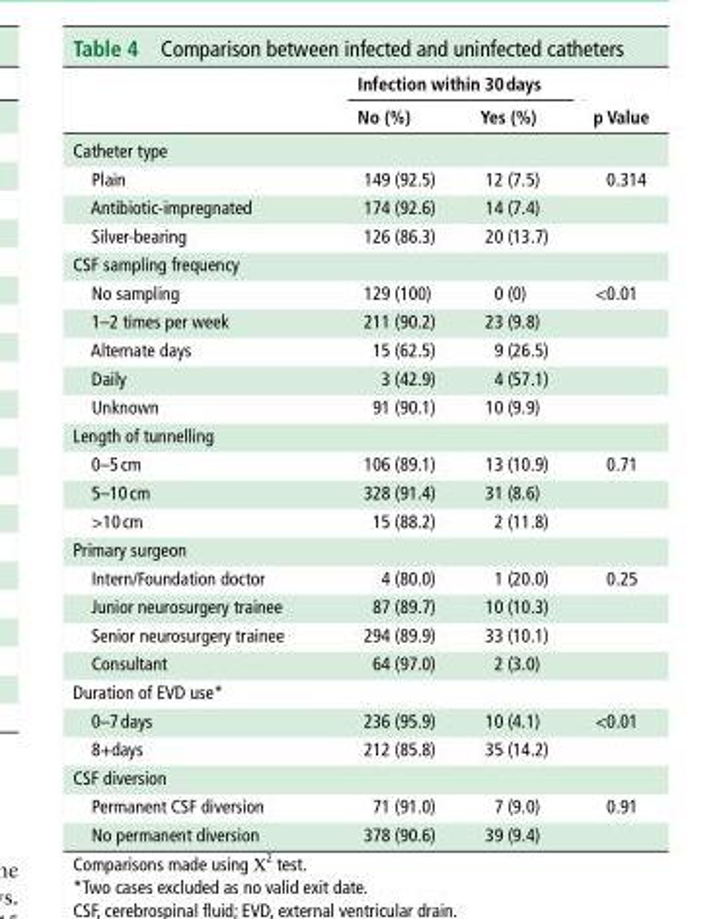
<table><thead><tr><td rowspan="2"></td><td colspan="2">Infection within 30 days</td><td rowspan="2">p Value</td></tr><tr><td>No (%)</td><td>Yes (%)</td></tr></thead><tbody><tr><td colspan="4">Catheter type</td></tr><tr><td>Plain</td><td>149 (92.5)</td><td>12 (7.5)</td><td>0.314</td></tr><tr><td>Antibiotic-impregnated</td><td>174 (92.6)</td><td>14 (7.4)</td><td></td></tr><tr><td>Silver-bearing</td><td>126 (86.3)</td><td>20 (13.7)</td><td></td></tr><tr><td colspan="4">CSF sampling frequency</td></tr><tr><td>No sampling</td><td>129 (100)</td><td>0 (0)</td><td>&lt;0.01</td></tr><tr><td>1–2 times per week</td><td>211 (90.2)</td><td>23 (9.8)</td><td></td></tr><tr><td>Alternate days</td><td>15 (62.5)</td><td>9 (26.5)</td><td></td></tr><tr><td>Daily</td><td>3 (42.9)</td><td>4 (57.1)</td><td></td></tr><tr><td>Unknown</td><td>91 (90.1)</td><td>10 (9.9)</td><td></td></tr><tr><td colspan="4">Length of tunnelling</td></tr><tr><td>0–5 cm</td><td>106 (89.1)</td><td>13 (10.9)</td><td>0.71</td></tr><tr><td>5–10 cm</td><td>328 (91.4)</td><td>31 (8.6)</td><td></td></tr><tr><td>&gt;10 cm</td><td>15 (88.2)</td><td>2 (11.8)</td><td></td></tr><tr><td colspan="4">Primary surgeon</td></tr><tr><td>Intern/Foundation doctor</td><td>4 (80.0)</td><td>1 (20.0)</td><td>0.25</td></tr><tr><td>Junior neurosurgery trainee</td><td>87 (89.7)</td><td>10 (10.3)</td><td></td></tr><tr><td>Senior neurosurgery trainee</td><td>294 (89.9)</td><td>33 (10.1)</td><td></td></tr><tr><td>Consultant</td><td>64 (97.0)</td><td>2 (3.0)</td><td></td></tr><tr><td colspan="4">Duration of EVD use*</td></tr><tr><td>0–7 days</td><td>236 (95.9)</td><td>10 (4.1)</td><td>&lt;0.01</td></tr><tr><td>8+days</td><td>212 (85.8)</td><td>35 (14.2)</td><td></td></tr><tr><td colspan="4">CSF diversion</td></tr><tr><td>Permanent CSF diversion</td><td>71 (91.0)</td><td>7 (9.0)</td><td>0.91</td></tr><tr><td>No permanent diversion</td><td>378 (90.6)</td><td>39 (9.4)</td><td></td></tr></tbody></table>